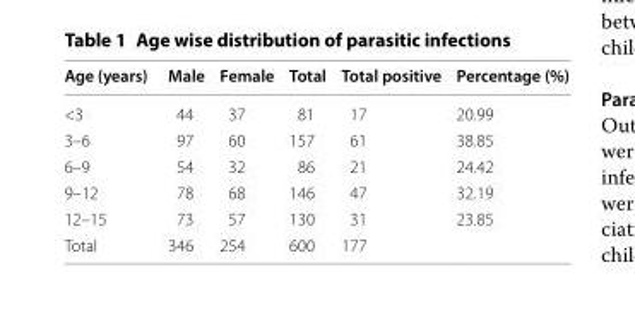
<table><thead><tr><td>Age (years)</td><td>Male</td><td>Female</td><td>Total</td><td>Total positive</td><td>Percentage (%)</td></tr></thead><tbody><tr><td>&lt;3</td><td>44</td><td>37</td><td>81</td><td>17</td><td>20.99</td></tr><tr><td>3–6</td><td>97</td><td>60</td><td>157</td><td>61</td><td>38.85</td></tr><tr><td>6–9</td><td>54</td><td>32</td><td>86</td><td>21</td><td>24.42</td></tr><tr><td>9–12</td><td>78</td><td>68</td><td>146</td><td>47</td><td>32.19</td></tr><tr><td>12–15</td><td>73</td><td>57</td><td>130</td><td>31</td><td>23.85</td></tr><tr><td>Total</td><td>346</td><td>254</td><td>600</td><td>177</td><td></td></tr></tbody></table>